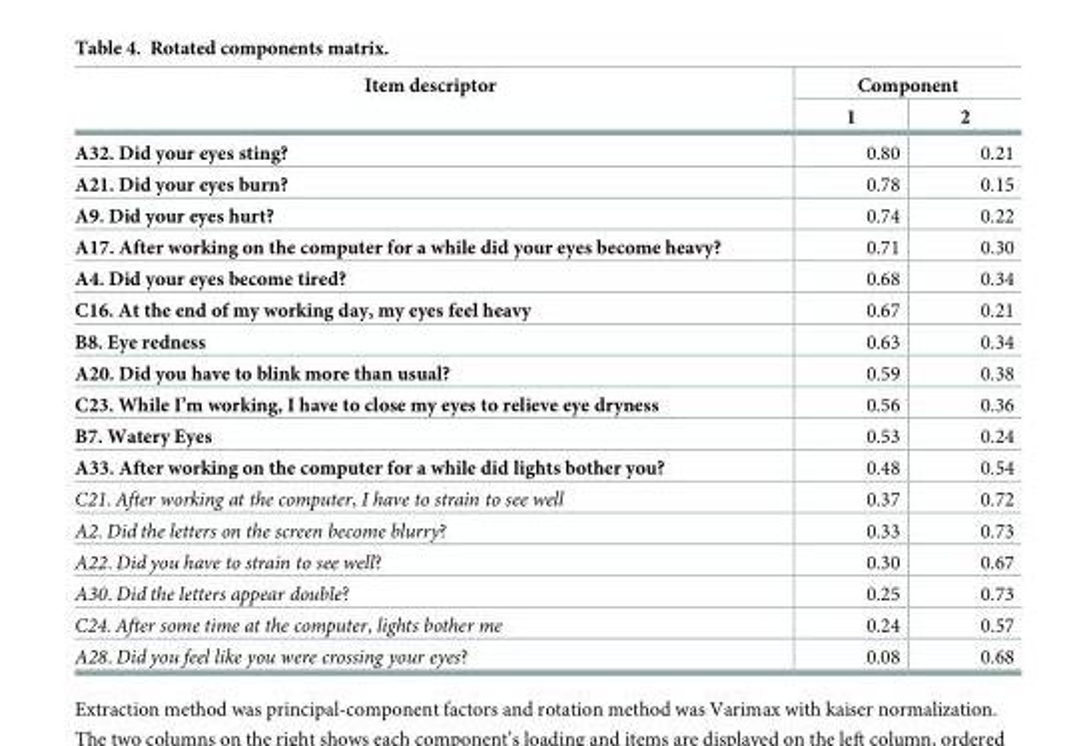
<table><thead><tr><td rowspan="2">Item descriptor</td><td colspan="2">Component</td></tr><tr><td>1</td><td>2</td></tr></thead><tbody><tr><td>A32. Did your eyes sting?</td><td>0.80</td><td>0.21</td></tr><tr><td>A21. Did your eyes burn?</td><td>0.78</td><td>0.15</td></tr><tr><td>A9. Did your eyes hurt?</td><td>0.74</td><td>0.22</td></tr><tr><td>A17. After working on the computer for a while did your eyes become heavy?</td><td>0.71</td><td>0.30</td></tr><tr><td>A4. Did your eyes become tired?</td><td>0.68</td><td>0.34</td></tr><tr><td>C16. At the end of my working day, my eyes feel heavy</td><td>0.67</td><td>0.21</td></tr><tr><td>B8. Eye redness</td><td>0.63</td><td>0.34</td></tr><tr><td>A20. Did you have to blink more than usual?</td><td>0.59</td><td>0.38</td></tr><tr><td>C23. While I’m working, I have to close my eyes to relieve eye dryness</td><td>0.56</td><td>0.36</td></tr><tr><td>B7. Watery Eyes</td><td>0.53</td><td>0.24</td></tr><tr><td>A33. After working on the computer for a while did lights bother you?</td><td>0.48</td><td>0.54</td></tr><tr><td>C21. After working at the computer, I have to strain to see well</td><td>0.37</td><td>0.72</td></tr><tr><td>A2. Did the letters on the screen become blurry?</td><td>0.33</td><td>0.73</td></tr><tr><td>A22. Did you have to strain to see well?</td><td>0.30</td><td>0.67</td></tr><tr><td>A30. Did the letters appear double?</td><td>0.25</td><td>0.73</td></tr><tr><td>C24. After some time at the computer, lights bother me</td><td>0.24</td><td>0.57</td></tr><tr><td>A28. Did you feel like you were crossing your eyes?</td><td>0.08</td><td>0.68</td></tr></tbody></table>